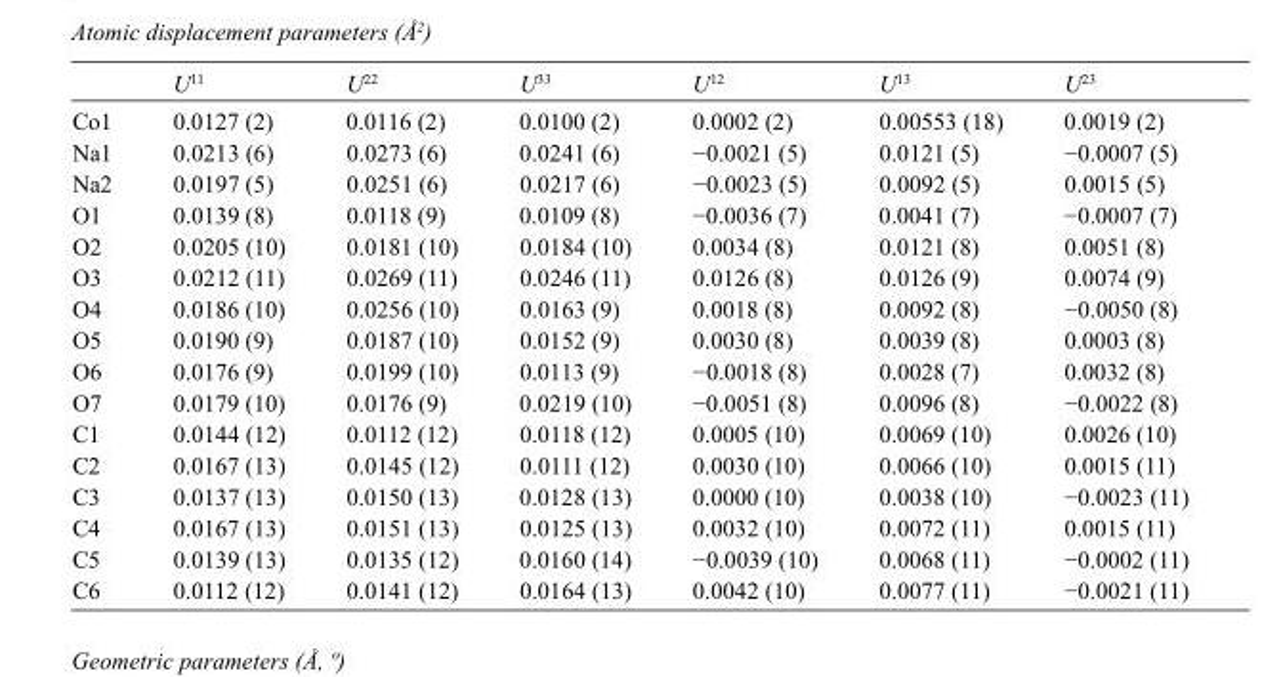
<table><thead><tr><td></td><td>U<sup>11</sup></td><td>U<sup>22</sup></td><td>U<sup>33</sup></td><td>U<sup>12</sup></td><td>U<sup>13</sup></td><td>U<sup>23</sup></td></tr></thead><tbody><tr><td>Co1</td><td>0.0127 (2)</td><td>0.0116 (2)</td><td>0.0100 (2)</td><td>0.0002 (2)</td><td>0.00553 (18)</td><td>0.0019 (2)</td></tr><tr><td>Na1</td><td>0.0213 (6)</td><td>0.0273 (6)</td><td>0.0241 (6)</td><td>−0.0021 (5)</td><td>0.0121 (5)</td><td>−0.0007 (5)</td></tr><tr><td>Na2</td><td>0.0197 (5)</td><td>0.0251 (6)</td><td>0.0217 (6)</td><td>−0.0023 (5)</td><td>0.0092 (5)</td><td>0.0015 (5)</td></tr><tr><td>O1</td><td>0.0139 (8)</td><td>0.0118 (9)</td><td>0.0109 (8)</td><td>−0.0036 (7)</td><td>0.0041 (7)</td><td>−0.0007 (7)</td></tr><tr><td>O2</td><td>0.0205 (10)</td><td>0.0181 (10)</td><td>0.0184 (10)</td><td>0.0034 (8)</td><td>0.0121 (8)</td><td>0.0051 (8)</td></tr><tr><td>O3</td><td>0.0212 (11)</td><td>0.0269 (11)</td><td>0.0246 (11)</td><td>0.0126 (8)</td><td>0.0126 (9)</td><td>0.0074 (9)</td></tr><tr><td>O4</td><td>0.0186 (10)</td><td>0.0256 (10)</td><td>0.0163 (9)</td><td>0.0018 (8)</td><td>0.0092 (8)</td><td>−0.0050 (8)</td></tr><tr><td>O5</td><td>0.0190 (9)</td><td>0.0187 (10)</td><td>0.0152 (9)</td><td>0.0030 (8)</td><td>0.0039 (8)</td><td>0.0003 (8)</td></tr><tr><td>O6</td><td>0.0176 (9)</td><td>0.0199 (10)</td><td>0.0113 (9)</td><td>−0.0018 (8)</td><td>0.0028 (7)</td><td>0.0032 (8)</td></tr><tr><td>O7</td><td>0.0179 (10)</td><td>0.0176 (9)</td><td>0.0219 (10)</td><td>−0.0051 (8)</td><td>0.0096 (8)</td><td>−0.0022 (8)</td></tr><tr><td>C1</td><td>0.0144 (12)</td><td>0.0112 (12)</td><td>0.0118 (12)</td><td>0.0005 (10)</td><td>0.0069 (10)</td><td>0.0026 (10)</td></tr><tr><td>C2</td><td>0.0167 (13)</td><td>0.0145 (12)</td><td>0.0111 (12)</td><td>0.0030 (10)</td><td>0.0066 (10)</td><td>0.0015 (11)</td></tr><tr><td>C3</td><td>0.0137 (13)</td><td>0.0150 (13)</td><td>0.0128 (13)</td><td>0.0000 (10)</td><td>0.0038 (10)</td><td>−0.0023 (11)</td></tr><tr><td>C4</td><td>0.0167 (13)</td><td>0.0151 (13)</td><td>0.0125 (13)</td><td>0.0032 (10)</td><td>0.0072 (11)</td><td>0.0015 (11)</td></tr><tr><td>C5</td><td>0.0139 (13)</td><td>0.0135 (12)</td><td>0.0160 (14)</td><td>−0.0039 (10)</td><td>0.0068 (11)</td><td>−0.0002 (11)</td></tr><tr><td>C6</td><td>0.0112 (12)</td><td>0.0141 (12)</td><td>0.0164 (13)</td><td>0.0042 (10)</td><td>0.0077 (11)</td><td>−0.0021 (11)</td></tr></tbody></table>